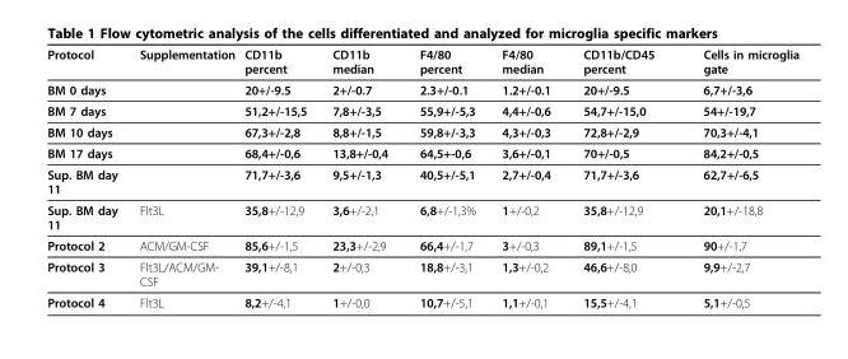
<table><thead><tr><td>Protocol</td><td>Supplementation</td><td>CD11b percent</td><td>CD11b median</td><td>F4/80 percent</td><td>F4/80 median</td><td>CD11b/CD45 percent</td><td>Cells in microglia gate</td></tr></thead><tbody><tr><td>BM 0 days</td><td></td><td>20+/-9.5</td><td>2+/-0.7</td><td>2.3+/-0.1</td><td>1.2+/-0.1</td><td>20+/-9.5</td><td>6,7+/-3,6</td></tr><tr><td>BM 7 days</td><td></td><td>51,2+/-15,5</td><td>7,8+/-3,5</td><td>55,9+/-5,3</td><td>4,4+/-0,6</td><td>54,7+/-15,0</td><td>54+/-19,7</td></tr><tr><td>BM 10 days</td><td></td><td>67,3+/-2,8</td><td>8,8+/-1,5</td><td>59,8+/-3,3</td><td>4,3+/-0,3</td><td>72,8+/-2,9</td><td>70,3+/-4,1</td></tr><tr><td>BM 17 days</td><td></td><td>68,4+/-0,6</td><td>13,8+/-0,4</td><td>64,5+-0,6</td><td>3,6+/-0,1</td><td>70+/-0,5</td><td>84,2+/-0,5</td></tr><tr><td>Sup. BM day 11</td><td></td><td>71,7+/-3,6</td><td>9,5+/-1,3</td><td>40,5+/-5,1</td><td>2,7+/-0,4</td><td>71,7+/-3,6</td><td>62,7+/-6,5</td></tr><tr><td>Sup. BM day 11</td><td>Flt3L</td><td>35,8+/-12,9</td><td>3,6+/-2,1</td><td>6,8+/-1,3%</td><td>1+/-0,2</td><td>35,8+/-12,9</td><td>20,1+/-18,8</td></tr><tr><td>Protocol 2</td><td>ACM/GM-CSF</td><td>85,6+/-1,5</td><td>23,3+/-2,9</td><td>66,4+/-1,7</td><td>3+/-0,3</td><td>89,1+/-1,5</td><td>90+/-1,7</td></tr><tr><td>Protocol 3</td><td>Flt3L/ACM/GM- CSF</td><td>39,1+/-8,1</td><td>2+/-0,3</td><td>18,8+/-3,1</td><td>1,3+/-0,2</td><td>46,6+/-8,0</td><td>9,9+/-2,7</td></tr><tr><td>Protocol 4</td><td>Flt3L</td><td>8,2+/-4,1</td><td>1+/-0,0</td><td>10,7+/-5,1</td><td>1,1+/-0,1</td><td>15,5+/-4,1</td><td>5,1+/-0,5</td></tr></tbody></table>